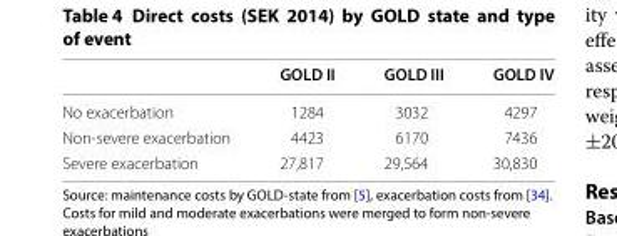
<table><thead><tr><td></td><td>GOLD II</td><td>GOLD III</td><td>GOLD IV</td></tr></thead><tbody><tr><td>No exacerbation</td><td>1284</td><td>3032</td><td>4297</td></tr><tr><td>Non-severe exacerbation</td><td>4423</td><td>6170</td><td>7436</td></tr><tr><td>Severe exacerbation</td><td>27,817</td><td>29,564</td><td>30,830</td></tr></tbody></table>